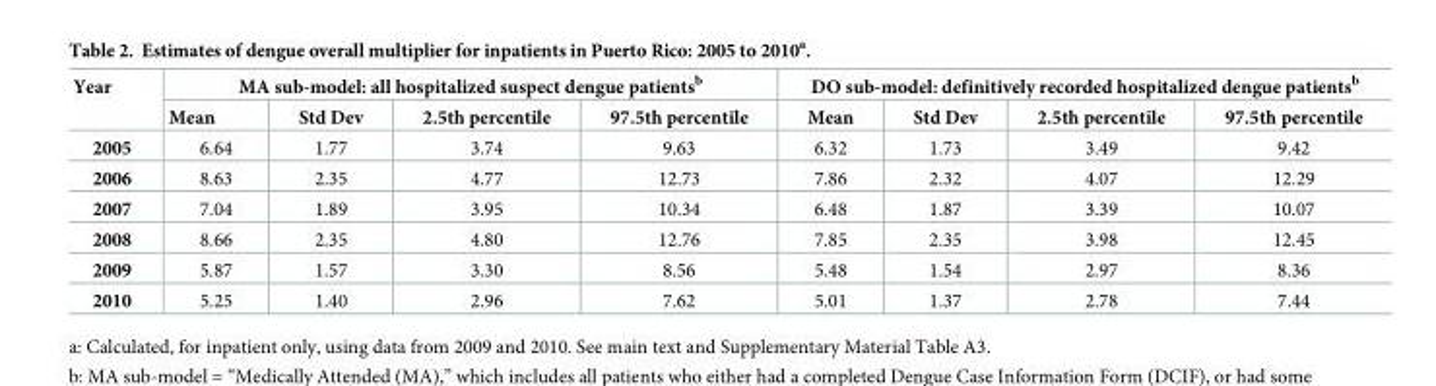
<table><thead><tr><td rowspan="2">Year</td><td colspan="4">MA sub-model: all hospitalized suspect dengue patients<sup>b</sup></td><td colspan="4">DO sub-model: definitively recorded hospitalized dengue patients<sup>b</sup></td></tr><tr><td>Mean</td><td>Std Dev</td><td>2.5th percentile</td><td>97.5th percentile</td><td>Mean</td><td>Std Dev</td><td>2.5th percentile</td><td>97.5th percentile</td></tr></thead><tbody><tr><td>2005</td><td>6.64</td><td>1.77</td><td>3.74</td><td>9.63</td><td>6.32</td><td>1.73</td><td>3.49</td><td>9.42</td></tr><tr><td>2006</td><td>8.63</td><td>2.35</td><td>4.77</td><td>12.73</td><td>7.86</td><td>2.32</td><td>4.07</td><td>12.29</td></tr><tr><td>2007</td><td>7.04</td><td>1.89</td><td>3.95</td><td>10.34</td><td>6.48</td><td>1.87</td><td>3.39</td><td>10.07</td></tr><tr><td>2008</td><td>8.66</td><td>2.35</td><td>4.80</td><td>12.76</td><td>7.85</td><td>2.35</td><td>3.98</td><td>12.45</td></tr><tr><td>2009</td><td>5.87</td><td>1.57</td><td>3.30</td><td>8.56</td><td>5.48</td><td>1.54</td><td>2.97</td><td>8.36</td></tr><tr><td>2010</td><td>5.25</td><td>1.40</td><td>2.96</td><td>7.62</td><td>5.01</td><td>1.37</td><td>2.78</td><td>7.44</td></tr></tbody></table>